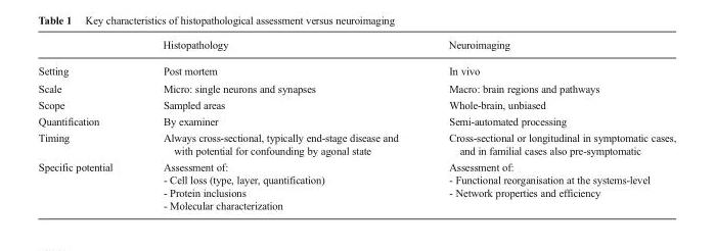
<table><thead><tr><td></td><td>Histopathology</td><td>Neuroimaging</td></tr></thead><tbody><tr><td>Setting</td><td>Post mortem</td><td>In vivo</td></tr><tr><td>Scale</td><td>Micro: single neurons and synapses</td><td>Macro: brain regions and pathways</td></tr><tr><td>Scope</td><td>Sampled areas</td><td>Whole-brain, unbiased</td></tr><tr><td>Quantification</td><td>By examiner</td><td>Semi-automated processing</td></tr><tr><td>Timing</td><td>Always cross-sectional, typically end-stage disease and with potential for confounding by agonal state</td><td>Cross-sectional or longitudinal in symptomatic cases, and in familial cases also pre-symptomatic</td></tr><tr><td>Specific potential</td><td>Assessment of: - Cell loss (type, layer, quantification) - Protein inclusions - Molecular characterization</td><td>Assessment of: - Functional reorganisation at the systems-level - Network properties and efficiency</td></tr></tbody></table>